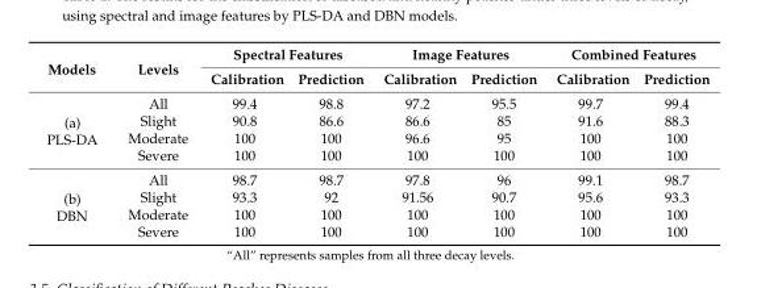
<table><thead><tr><td rowspan="2">Models</td><td rowspan="2">Levels</td><td colspan="2">Spectral Features</td><td colspan="2">Image Features</td><td colspan="2">Combined Features</td></tr><tr><td>Calibration</td><td>Prediction</td><td>Calibration</td><td>Prediction</td><td>Calibration</td><td>Prediction</td></tr></thead><tbody><tr><td rowspan="4">(a) PLS-DA</td><td>All</td><td>99.4</td><td>98.8</td><td>97.2</td><td>95.5</td><td>99.7</td><td>99.4</td></tr><tr><td>Slight</td><td>90.8</td><td>86.6</td><td>86.6</td><td>85</td><td>91.6</td><td>88.3</td></tr><tr><td>Moderate</td><td>100</td><td>100</td><td>96.6</td><td>95</td><td>100</td><td>100</td></tr><tr><td>Severe</td><td>100</td><td>100</td><td>100</td><td>100</td><td>100</td><td>100</td></tr><tr><td rowspan="4">(b) DBN</td><td>All</td><td>98.7</td><td>98.7</td><td>97.8</td><td>96</td><td>99.1</td><td>98.7</td></tr><tr><td>Slight</td><td>93.3</td><td>92</td><td>91.56</td><td>90.7</td><td>95.6</td><td>93.3</td></tr><tr><td>Moderate</td><td>100</td><td>100</td><td>100</td><td>100</td><td>100</td><td>100</td></tr><tr><td>Severe</td><td>100</td><td>100</td><td>100</td><td>100</td><td>100</td><td>100</td></tr></tbody></table>